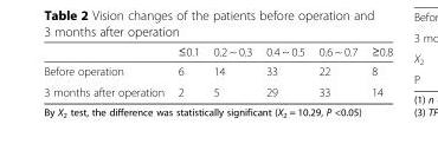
<table><thead><tr><td></td><td>≤0.1</td><td>0.2 ~ 0.3</td><td>0.4 ~ 0.5</td><td>0.6 ~ 0.7</td><td>≥0.8</td></tr></thead><tbody><tr><td>Before operation</td><td>6</td><td>14</td><td>33</td><td>22</td><td>8</td></tr><tr><td>3 months after operation</td><td>2</td><td>5</td><td>29</td><td>33</td><td>14</td></tr></tbody></table>